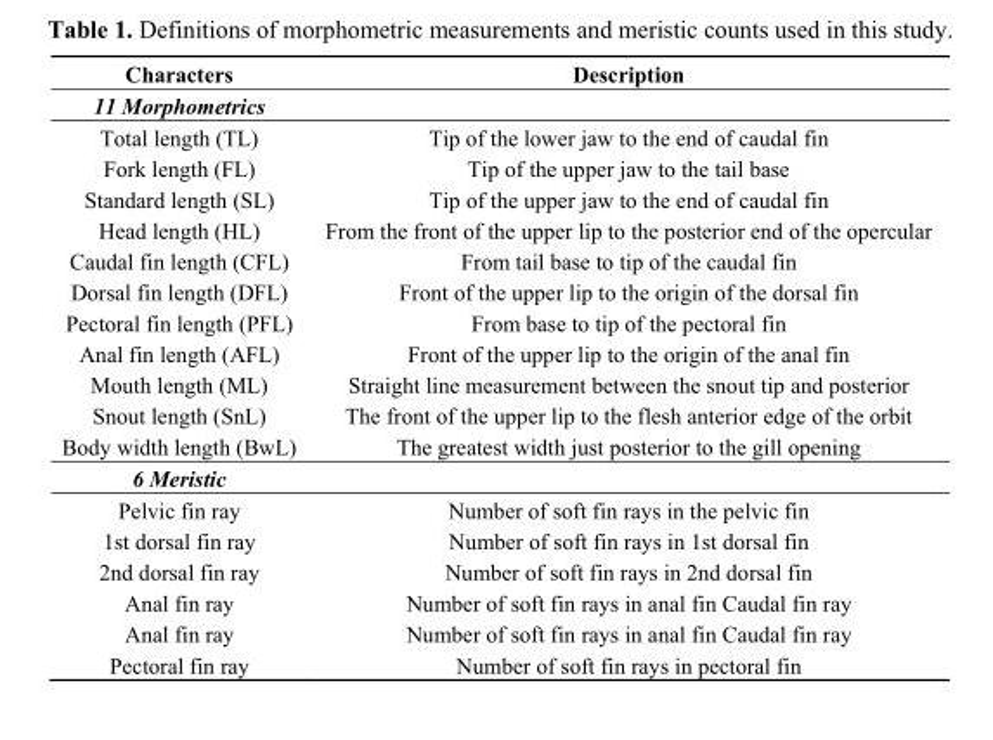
<table><thead><tr><td>Characters</td><td>Description</td></tr></thead><tbody><tr><td colspan="2">11 Morphometrics</td></tr><tr><td>Total length (TL)</td><td>Tip of the lower jaw to the end of caudal fin</td></tr><tr><td>Fork length (FL)</td><td>Tip of the upper jaw to the tail base</td></tr><tr><td>Standard length (SL)</td><td>Tip of the upper jaw to the end of caudal fin</td></tr><tr><td>Head length (HL)</td><td>From the front of the upper lip to the posterior end of the opercular</td></tr><tr><td>Caudal fin length (CFL)</td><td>From tail base to tip of the caudal fin</td></tr><tr><td>Dorsal fin length (DFL)</td><td>Front of the upper lip to the origin of the dorsal fin</td></tr><tr><td>Pectoral fin length (PFL)</td><td>From base to tip of the pectoral fin</td></tr><tr><td>Anal fin length (AFL)</td><td>Front of the upper lip to the origin of the anal fin</td></tr><tr><td>Mouth length (ML)</td><td>Straight line measurement between the snout tip and posterior</td></tr><tr><td>Snout length (SnL)</td><td>The front of the upper lip to the flesh anterior edge of the orbit</td></tr><tr><td>Body width length (BwL)</td><td>The greatest width just posterior to the gill opening</td></tr><tr><td colspan="2">6 Meristic</td></tr><tr><td>Pelvic fin ray</td><td>Number of soft fin rays in the pelvic fin</td></tr><tr><td>1st dorsal fin ray</td><td>Number of soft fin rays in 1st dorsal fin</td></tr><tr><td>2nd dorsal fin ray</td><td>Number of soft fin rays in 2nd dorsal fin</td></tr><tr><td>Anal fin ray</td><td>Number of soft fin rays in anal fin Caudal fin ray</td></tr><tr><td>Anal fin ray</td><td>Number of soft fin rays in anal fin Caudal fin ray</td></tr><tr><td>Pectoral fin ray</td><td>Number of soft fin rays in pectoral fin</td></tr></tbody></table>